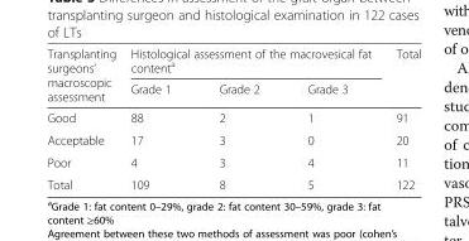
<table><thead><tr><td rowspan="2">Transplanting surgeons’ macroscopic assessment</td><td colspan="3">Histological assessment of the macrovesical fat content<sup>a</sup></td><td rowspan="2">Total</td></tr><tr><td>Grade 1</td><td>Grade 2</td><td>Grade 3</td></tr></thead><tbody><tr><td>Good</td><td>88</td><td>2</td><td>1</td><td>91</td></tr><tr><td>Acceptable</td><td>17</td><td>3</td><td>0</td><td>20</td></tr><tr><td>Poor</td><td>4</td><td>3</td><td>4</td><td>11</td></tr><tr><td>Total</td><td>109</td><td>8</td><td>5</td><td>122</td></tr></tbody></table>